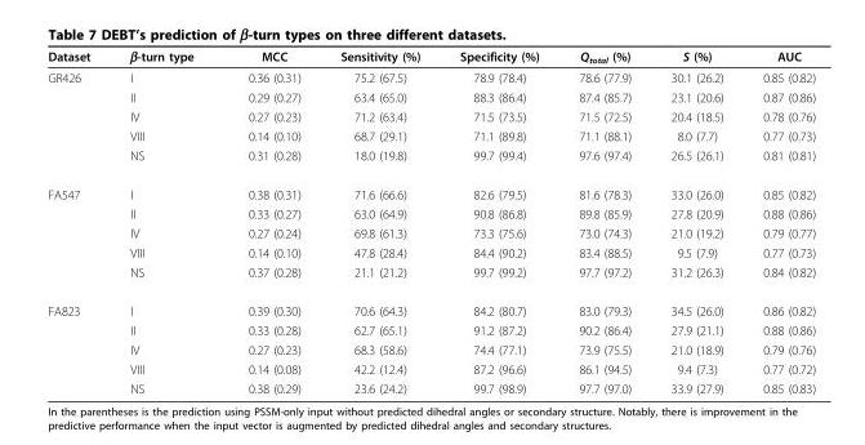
<table><thead><tr><td>Dataset</td><td>β-turn type</td><td>MCC</td><td>Sensitivity (%)</td><td>Specificity (%)</td><td>Q<sub>total</sub> (%)</td><td>S (%)</td><td>AUC</td></tr></thead><tbody><tr><td rowspan="5">GR426</td><td>I</td><td>0.36 (0.31)</td><td>75.2 (67.5)</td><td>78.9 (78.4)</td><td>78.6 (77.9)</td><td>30.1 (26.2)</td><td>0.85 (0.82)</td></tr><tr><td>II</td><td>0.29 (0.27)</td><td>63.4 (65.0)</td><td>88.3 (86.4)</td><td>87.4 (85.7)</td><td>23.1 (20.6)</td><td>0.87 (0.86)</td></tr><tr><td>IV</td><td>0.27 (0.23)</td><td>71.2 (63.4)</td><td>71.5 (73.5)</td><td>71.5 (72.5)</td><td>20.4 (18.5)</td><td>0.78 (0.76)</td></tr><tr><td>VIII</td><td>0.14 (0.10)</td><td>68.7 (29.1)</td><td>71.1 (89.8)</td><td>71.1 (88.1)</td><td>8.0 (7.7)</td><td>0.77 (0.73)</td></tr><tr><td>NS</td><td>0.31 (0.28)</td><td>18.0 (19.8)</td><td>99.7 (99.4)</td><td>97.6 (97.4)</td><td>26.5 (26.1)</td><td>0.81 (0.81)</td></tr><tr><td rowspan="5">FA547</td><td>I</td><td>0.38 (0.31)</td><td>71.6 (66.6)</td><td>82.6 (79.5)</td><td>81.6 (78.3)</td><td>33.0 (26.0)</td><td>0.85 (0.82)</td></tr><tr><td>II</td><td>0.33 (0.27)</td><td>63.0 (64.9)</td><td>90.8 (86.8)</td><td>89.8 (85.9)</td><td>27.8 (20.9)</td><td>0.88 (0.86)</td></tr><tr><td>IV</td><td>0.27 (0.24)</td><td>69.8 (61.3)</td><td>73.3 (75.6)</td><td>73.0 (74.3)</td><td>21.0 (19.2)</td><td>0.79 (0.77)</td></tr><tr><td>VIII</td><td>0.14 (0.10)</td><td>47.8 (28.4)</td><td>84.4 (90.2)</td><td>83.4 (88.5)</td><td>9.5 (7.9)</td><td>0.77 (0.73)</td></tr><tr><td>NS</td><td>0.37 (0.28)</td><td>21.1 (21.2)</td><td>99.7 (99.2)</td><td>97.7 (97.2)</td><td>31.2 (26.3)</td><td>0.84 (0.82)</td></tr><tr><td rowspan="5">FA823</td><td>I</td><td>0.39 (0.30)</td><td>70.6 (64.3)</td><td>84.2 (80.7)</td><td>83.0 (79.3)</td><td>34.5 (26.0)</td><td>0.86 (0.82)</td></tr><tr><td>II</td><td>0.33 (0.28)</td><td>62.7 (65.1)</td><td>91.2 (87.2)</td><td>90.2 (86.4)</td><td>27.9 (21.1)</td><td>0.88 (0.86)</td></tr><tr><td>IV</td><td>0.27 (0.23)</td><td>68.3 (58.6)</td><td>74.4 (77.1)</td><td>73.9 (75.5)</td><td>21.0 (18.9)</td><td>0.79 (0.76)</td></tr><tr><td>VIII</td><td>0.14 (0.08)</td><td>42.2 (12.4)</td><td>87.2 (96.6)</td><td>86.1 (94.5)</td><td>9.4 (7.3)</td><td>0.77 (0.72)</td></tr><tr><td>NS</td><td>0.38 (0.29)</td><td>23.6 (24.2)</td><td>99.7 (98.9)</td><td>97.7 (97.0)</td><td>33.9 (27.9)</td><td>0.85 (0.83)</td></tr></tbody></table>